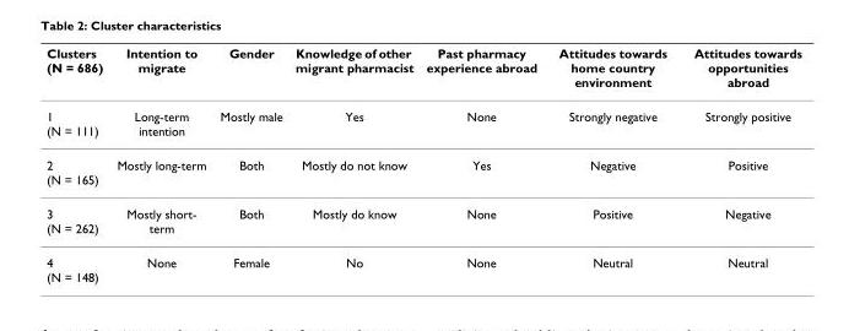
<table><thead><tr><td>Clusters (N = 686)</td><td>Intention to migrate</td><td>Gender</td><td>Knowledge of other migrant pharmacist</td><td>Past pharmacy experience abroad</td><td>Attitudes towards home country environment</td><td>Attitudes towards opportunities abroad</td></tr></thead><tbody><tr><td>1 (N = 111)</td><td>Long-term intention</td><td>Mostly male</td><td>Yes</td><td>None</td><td>Strongly negative</td><td>Strongly positive</td></tr><tr><td>2 (N = 165)</td><td>Mostly long-term</td><td>Both</td><td>Mostly do not know</td><td>Yes</td><td>Negative</td><td>Positive</td></tr><tr><td>3 (N = 262)</td><td>Mostly short- term</td><td>Both</td><td>Mostly do know</td><td>None</td><td>Positive</td><td>Negative</td></tr><tr><td>4 (N = 148)</td><td>None</td><td>Female</td><td>No</td><td>None</td><td>Neutral</td><td>Neutral</td></tr></tbody></table>